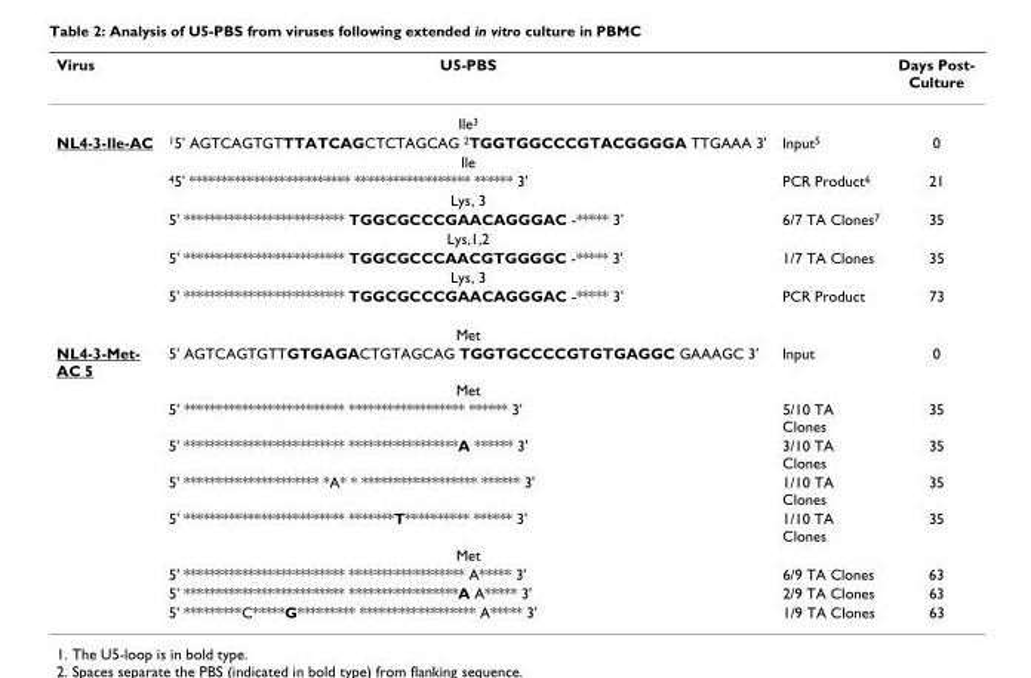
<table><thead><tr><td>Virus</td><td>U5-PBS</td><td></td><td>Days Post- Culture</td></tr></thead><tbody><tr><td></td><td>Ile<sup>3</sup></td><td></td><td></td></tr><tr><td rowspan="10">NL4-3-Ile-AC</td><td><sup>1</sup>5&#x27; AGTCAGTGTTTATCAGCTCTAGCAG <sup>2</sup>TGGTGGCCCGTACGGGGA TTGAAA 3&#x27;</td><td>Input<sup>5</sup></td><td>0</td></tr><tr><td>Ile</td><td></td><td></td></tr><tr><td>45&#x27; ************************* ****************** ****** 3&#x27;</td><td>PCR Product<sup>6</sup></td><td>21</td></tr><tr><td>Lys, 3</td><td></td><td></td></tr><tr><td>5&#x27; ************************* TGGCGCCCGAACAGGGAC -***** 3&#x27;</td><td>6/7 TA Clones<sup>7</sup></td><td>35</td></tr><tr><td>Lys,1,2</td><td></td><td></td></tr><tr><td>5&#x27; ************************* TGGCGCCCAACGTGGGGC -***** 3&#x27;</td><td>1/7 TA Clones</td><td>35</td></tr><tr><td>Lys, 3</td><td></td><td></td></tr><tr><td>5&#x27; ************************* TGGCGCCCGAACAGGGAC -***** 3&#x27;</td><td>PCR Product</td><td>73</td></tr><tr><td>Met</td><td></td><td></td></tr><tr><td rowspan="10">NL4-3-Met- AC 5</td><td>5&#x27; AGTCAGTGTTGTGAGACTGTAGCAG TGGTGCCCCGTGTGAGGC GAAAGC 3&#x27;</td><td>Input</td><td>0</td></tr><tr><td>Met</td><td></td><td></td></tr><tr><td>5&#x27; ************************* ****************** ****** 3&#x27;</td><td>5/10 TA Clones</td><td>35</td></tr><tr><td>5&#x27; ************************* *****************A ****** 3&#x27;</td><td>3/10 TA Clones</td><td>35</td></tr><tr><td>5&#x27; ********************* *A* * ****************** ****** 3&#x27;</td><td>1/10 TA Clones</td><td>35</td></tr><tr><td>5&#x27; ************************* *******T********** ****** 3&#x27;</td><td>1/10 TA Clones</td><td>35</td></tr><tr><td>Met</td><td></td><td></td></tr><tr><td>5&#x27; ************************* ****************** A***** 3&#x27;</td><td>6/9 TA Clones</td><td>63</td></tr><tr><td>5&#x27; ************************* *****************A A***** 3&#x27;</td><td>2/9 TA CIones</td><td>63</td></tr><tr><td>5&#x27; *********C*****G********* ****************** A***** 3&#x27;</td><td>1/9 TA CIones</td><td>63</td></tr></tbody></table>